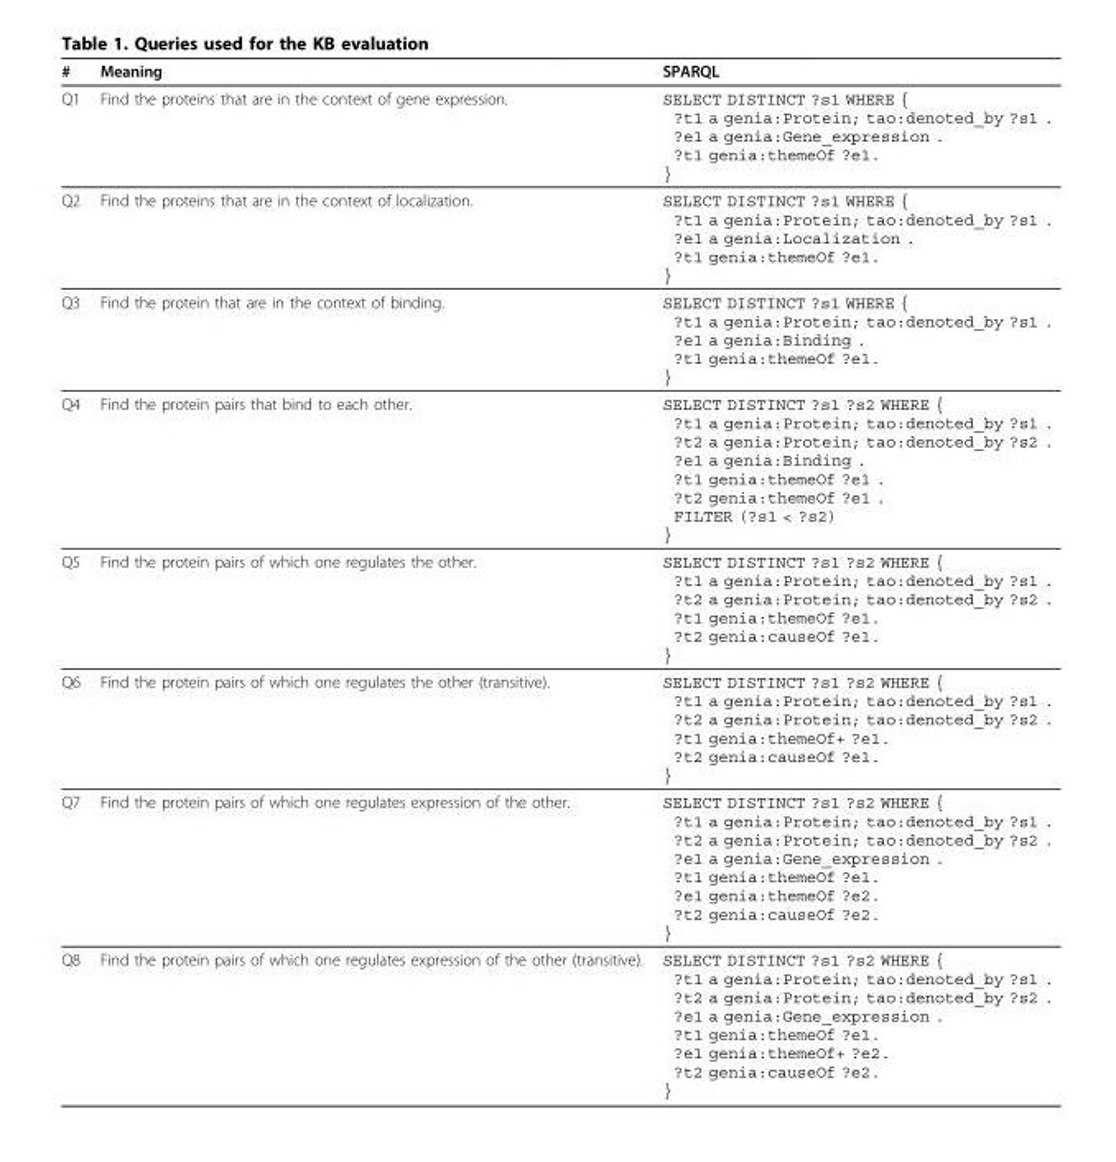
<table><thead><tr><td>#</td><td>Meaning</td><td>SPARQL</td></tr></thead><tbody><tr><td>Q1</td><td>Find the proteins that are in the context of gene expression.</td><td>SELECT DISTINCT ?s1 WHERE { ?t1 a genia:Protein; tao:denoted_by ?s1 . ?e1 a genia:Gene_expression . ?t1 genia:themeOf ?e1. }</td></tr><tr><td>Q2</td><td>Find the proteins that are in the context of localization.</td><td>SELECT DISTINCT ?s1 WHERE { ?t1 a genia:Protein; tao:denoted_by ?s1 . ?e1 a genia:Localization . ?t1 genia:themeOf ?e1. }</td></tr><tr><td>Q3</td><td>Find the protein that are in the context of binding.</td><td>SELECT DISTINCT ?s1 WHERE { ?t1 a genia:Protein; tao:denoted_by ?s1 . ?e1 a genia:Binding . ?t1 genia:themeOf ?e1. }</td></tr><tr><td>Q4</td><td>Find the protein pairs that bind to each other.</td><td>SELECT DISTINCT ?s1 ?s2 WHERE { ?t1 a genia:Protein; tao:denoted_by ?s1 . ?t2 a genia:Protein; tao:denoted_by ?s2 . ?e1 a genia:Binding . ?t1 genia:themeOf ?e1 . ?t2 genia:themeOf ?e1 . FILTER (?s1 &lt; ?s2) }</td></tr><tr><td>Q5</td><td>Find the protein pairs of which one regulates the other.</td><td>SELECT DISTINCT ?s1 ?s2 WHERE { ?t1 a genia:Protein; tao:denoted_by ?s1 . ?t2 a genia:Protein; tao:denoted_by ?s2 . ?t1 genia:themeOf ?e1. ?t2 genia:causeOf ?e1. }</td></tr><tr><td>Q6</td><td>Find the protein pairs of which one regulates the other (transitive).</td><td>SELECT DISTINCT ?s1 ?s2 WHERE { ?t1 a genia:Protein; tao:denoted_by ?s1 . ?t2 a genia:Protein; tao:denoted_by ?s2 . ?t1 genia:themeOf+ ?e1. ?t2 genia:causeOf ?e1. }</td></tr><tr><td>Q7</td><td>Find the protein pairs of which one regulates expression of the other.</td><td>SELECT DISTINCT ?s1 ?s2 WHERE { ?t1 a genia:Protein; tao:denoted_by ?s1 . ?t2 a genia:Protein; tao:denoted_by ?s2 . ?e1 a genia:Gene_expression . ?t1 genia:themeOf ?e1. ?e1 genia:themeOf ?e2. ?t2 genia:causeOf ?e2. }</td></tr><tr><td>Q8</td><td>Find the protein pairs of which one regulates expression of the other (transitive).</td><td>SELECT DISTINCT ?s1 ?s2 WHERE { ?t1 a genia:Protein; tao:denoted_by ?s1 . ?t2 a genia:Protein; tao:denoted_by ?s2 . ?e1 a genia:Gene_expression . ?t1 genia:themeOf ?e1. ?e1 genia:themeOf+ ?e2. ?t2 genia:causeOf ?e2. }</td></tr></tbody></table>